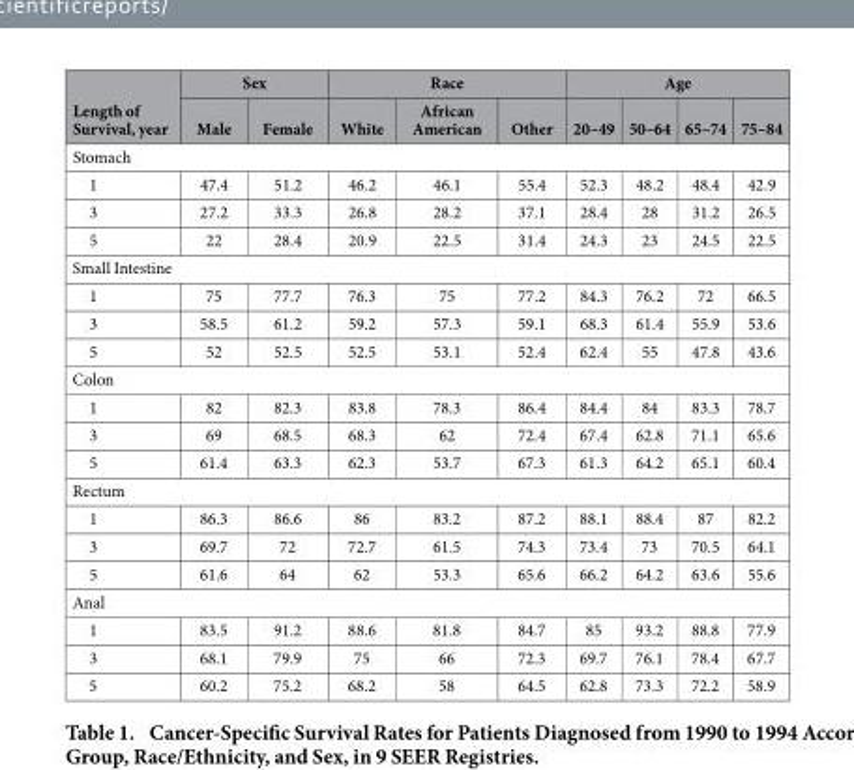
<table><thead><tr><td rowspan="2">Length of Survival, year</td><td colspan="2">Sex</td><td colspan="3">Race</td><td colspan="4">Age</td></tr><tr><td>Male</td><td>Female</td><td>White</td><td>African American</td><td>Other</td><td>20–49</td><td>50–64</td><td>65–74</td><td>75–84</td></tr></thead><tbody><tr><td colspan="10">Stomach</td></tr><tr><td>1</td><td>47.4</td><td>51.2</td><td>46.2</td><td>46.1</td><td>55.4</td><td>52.3</td><td>48.2</td><td>48.4</td><td>42.9</td></tr><tr><td>3</td><td>27.2</td><td>33.3</td><td>26.8</td><td>28.2</td><td>37.1</td><td>28.4</td><td>28</td><td>31.2</td><td>26.5</td></tr><tr><td>5</td><td>22</td><td>28.4</td><td>20.9</td><td>22.5</td><td>31.4</td><td>24.3</td><td>23</td><td>24.5</td><td>22.5</td></tr><tr><td colspan="10">Small Intestine</td></tr><tr><td>1</td><td>75</td><td>77.7</td><td>76.3</td><td>75</td><td>77.2</td><td>84.3</td><td>76.2</td><td>72</td><td>66.5</td></tr><tr><td>3</td><td>58.5</td><td>61.2</td><td>59.2</td><td>57.3</td><td>59.1</td><td>68.3</td><td>61.4</td><td>55.9</td><td>53.6</td></tr><tr><td>5</td><td>52</td><td>52.5</td><td>52.5</td><td>53.1</td><td>52.4</td><td>62.4</td><td>55</td><td>47.8</td><td>43.6</td></tr><tr><td colspan="10">Colon</td></tr><tr><td>1</td><td>82</td><td>82.3</td><td>83.8</td><td>78.3</td><td>86.4</td><td>84.4</td><td>84</td><td>83.3</td><td>78.7</td></tr><tr><td>3</td><td>69</td><td>68.5</td><td>68.3</td><td>62</td><td>72.4</td><td>67.4</td><td>62.8</td><td>71.1</td><td>65.6</td></tr><tr><td>5</td><td>61.4</td><td>63.3</td><td>62.3</td><td>53.7</td><td>67.3</td><td>61.3</td><td>64.2</td><td>65.1</td><td>60.4</td></tr><tr><td colspan="10">Rectum</td></tr><tr><td>1</td><td>86.3</td><td>86.6</td><td>86</td><td>83.2</td><td>87.2</td><td>88.1</td><td>88.4</td><td>87</td><td>82.2</td></tr><tr><td>3</td><td>69.7</td><td>72</td><td>72.7</td><td>61.5</td><td>74.3</td><td>73.4</td><td>73</td><td>70.5</td><td>64.1</td></tr><tr><td>5</td><td>61.6</td><td>64</td><td>62</td><td>53.3</td><td>65.6</td><td>66.2</td><td>64.2</td><td>63.6</td><td>55.6</td></tr><tr><td colspan="10">Anal</td></tr><tr><td>1</td><td>83.5</td><td>91.2</td><td>88.6</td><td>81.8</td><td>84.7</td><td>85</td><td>93.2</td><td>88.8</td><td>77.9</td></tr><tr><td>3</td><td>68.1</td><td>79.9</td><td>75</td><td>66</td><td>72.3</td><td>69.7</td><td>76.1</td><td>78.4</td><td>67.7</td></tr><tr><td>5</td><td>60.2</td><td>75.2</td><td>68.2</td><td>58</td><td>64.5</td><td>62.8</td><td>73.3</td><td>72.2</td><td>58.9</td></tr></tbody></table>